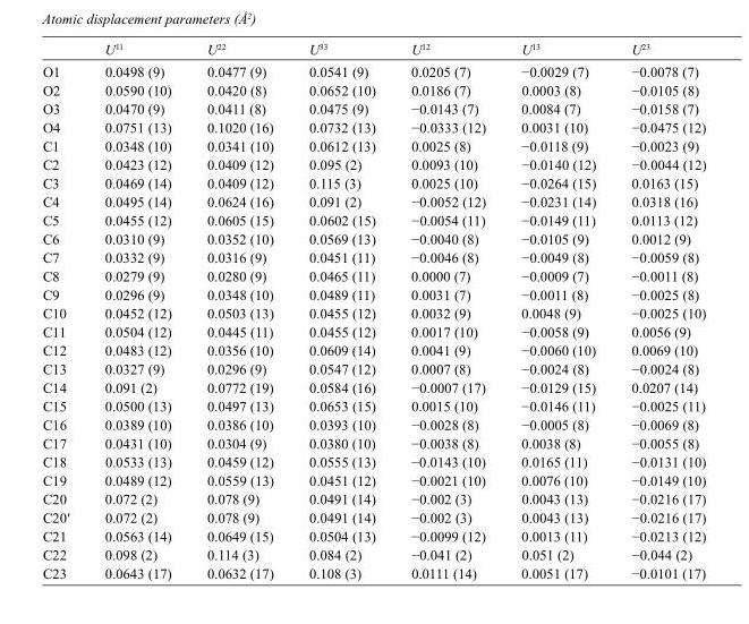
<table><thead><tr><td></td><td>U<sup>11</sup></td><td>U<sup>22</sup></td><td>U<sup>33</sup></td><td>U<sup>12</sup></td><td>U<sup>13</sup></td><td>U<sup>23</sup></td></tr></thead><tbody><tr><td>O1</td><td>0.0498 (9)</td><td>0.0477 (9)</td><td>0.0541 (9)</td><td>0.0205 (7)</td><td>−0.0029 (7)</td><td>−0.0078 (7)</td></tr><tr><td>O2</td><td>0.0590 (10)</td><td>0.0420 (8)</td><td>0.0652 (10)</td><td>0.0186 (7)</td><td>0.0003 (8)</td><td>−0.0105 (8)</td></tr><tr><td>O3</td><td>0.0470 (9)</td><td>0.0411 (8)</td><td>0.0475 (9)</td><td>−0.0143 (7)</td><td>0.0084 (7)</td><td>−0.0158 (7)</td></tr><tr><td>O4</td><td>0.0751 (13)</td><td>0.1020 (16)</td><td>0.0732 (13)</td><td>−0.0333 (12)</td><td>0.0031 (10)</td><td>−0.0475 (12)</td></tr><tr><td>C1</td><td>0.0348 (10)</td><td>0.0341 (10)</td><td>0.0612 (13)</td><td>0.0025 (8)</td><td>−0.0118 (9)</td><td>−0.0023 (9)</td></tr><tr><td>C2</td><td>0.0423 (12)</td><td>0.0409 (12)</td><td>0.095 (2)</td><td>0.0093 (10)</td><td>−0.0140 (12)</td><td>−0.0044 (12)</td></tr><tr><td>C3</td><td>0.0469 (14)</td><td>0.0409 (12)</td><td>0.115 (3)</td><td>0.0025 (10)</td><td>−0.0264 (15)</td><td>0.0163 (15)</td></tr><tr><td>C4</td><td>0.0495 (14)</td><td>0.0624 (16)</td><td>0.091 (2)</td><td>−0.0052 (12)</td><td>−0.0231 (14)</td><td>0.0318 (16)</td></tr><tr><td>C5</td><td>0.0455 (12)</td><td>0.0605 (15)</td><td>0.0602 (15)</td><td>−0.0054 (11)</td><td>−0.0149 (11)</td><td>0.0113 (12)</td></tr><tr><td>C6</td><td>0.0310 (9)</td><td>0.0352 (10)</td><td>0.0569 (13)</td><td>−0.0040 (8)</td><td>−0.0105 (9)</td><td>0.0012 (9)</td></tr><tr><td>C7</td><td>0.0332 (9)</td><td>0.0316 (9)</td><td>0.0451 (11)</td><td>−0.0046 (8)</td><td>−0.0049 (8)</td><td>−0.0059 (8)</td></tr><tr><td>C8</td><td>0.0279 (9)</td><td>0.0280 (9)</td><td>0.0465 (11)</td><td>0.0000 (7)</td><td>−0.0009 (7)</td><td>−0.0011 (8)</td></tr><tr><td>C9</td><td>0.0296 (9)</td><td>0.0348 (10)</td><td>0.0489 (11)</td><td>0.0031 (7)</td><td>−0.0011 (8)</td><td>−0.0025 (8)</td></tr><tr><td>C10</td><td>0.0452 (12)</td><td>0.0503 (13)</td><td>0.0455 (12)</td><td>0.0032 (9)</td><td>0.0048 (9)</td><td>−0.0025 (10)</td></tr><tr><td>C11</td><td>0.0504 (12)</td><td>0.0445 (11)</td><td>0.0455 (12)</td><td>0.0017 (10)</td><td>−0.0058 (9)</td><td>0.0056 (9)</td></tr><tr><td>C12</td><td>0.0483 (12)</td><td>0.0356 (10)</td><td>0.0609 (14)</td><td>0.0041 (9)</td><td>−0.0060 (10)</td><td>0.0069 (10)</td></tr><tr><td>C13</td><td>0.0327 (9)</td><td>0.0296 (9)</td><td>0.0547 (12)</td><td>0.0007 (8)</td><td>−0.0024 (8)</td><td>−0.0024 (8)</td></tr><tr><td>C14</td><td>0.091 (2)</td><td>0.0772 (19)</td><td>0.0584 (16)</td><td>−0.0007 (17)</td><td>−0.0129 (15)</td><td>0.0207 (14)</td></tr><tr><td>C15</td><td>0.0500 (13)</td><td>0.0497 (13)</td><td>0.0653 (15)</td><td>0.0015 (10)</td><td>−0.0146 (11)</td><td>−0.0025 (11)</td></tr><tr><td>C16</td><td>0.0389 (10)</td><td>0.0386 (10)</td><td>0.0393 (10)</td><td>−0.0028 (8)</td><td>−0.0005 (8)</td><td>−0.0069 (8)</td></tr><tr><td>C17</td><td>0.0431 (10)</td><td>0.0304 (9)</td><td>0.0380 (10)</td><td>−0.0038 (8)</td><td>0.0038 (8)</td><td>−0.0055 (8)</td></tr><tr><td>C18</td><td>0.0533 (13)</td><td>0.0459 (12)</td><td>0.0555 (13)</td><td>−0.0143 (10)</td><td>0.0165 (11)</td><td>−0.0131 (10)</td></tr><tr><td>C19</td><td>0.0489 (12)</td><td>0.0559 (13)</td><td>0.0451 (12)</td><td>−0.0021 (10)</td><td>0.0076 (10)</td><td>−0.0149 (10)</td></tr><tr><td>C20</td><td>0.072 (2)</td><td>0.078 (9)</td><td>0.0491 (14)</td><td>−0.002 (3)</td><td>0.0043 (13)</td><td>−0.0216 (17)</td></tr><tr><td>C20′</td><td>0.072 (2)</td><td>0.078 (9)</td><td>0.0491 (14)</td><td>−0.002 (3)</td><td>0.0043 (13)</td><td>−0.0216 (17)</td></tr><tr><td>C21</td><td>0.0563 (14)</td><td>0.0649 (15)</td><td>0.0504 (13)</td><td>−0.0099 (12)</td><td>0.0013 (11)</td><td>−0.0213 (12)</td></tr><tr><td>C22</td><td>0.098 (2)</td><td>0.114 (3)</td><td>0.084 (2)</td><td>−0.041 (2)</td><td>0.051 (2)</td><td>−0.044 (2)</td></tr><tr><td>C23</td><td>0.0643 (17)</td><td>0.0632 (17)</td><td>0.108 (3)</td><td>0.0111 (14)</td><td>0.0051 (17)</td><td>−0.0101 (17)</td></tr></tbody></table>